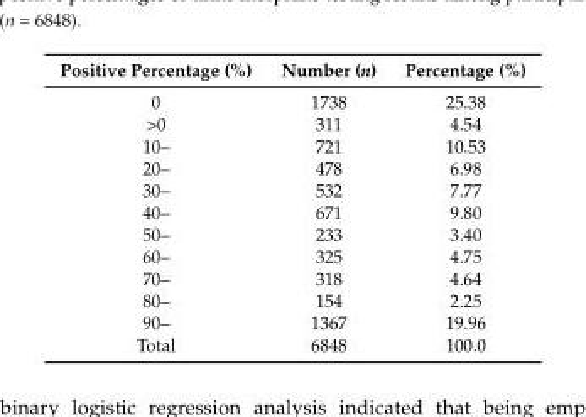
<table><thead><tr><td>Positive Percentage (%)</td><td>Number (n)</td><td>Percentage (%)</td></tr></thead><tbody><tr><td>0</td><td>1738</td><td>25.38</td></tr><tr><td>&gt;0</td><td>311</td><td>4.54</td></tr><tr><td>10–</td><td>721</td><td>10.53</td></tr><tr><td>20–</td><td>478</td><td>6.98</td></tr><tr><td>30–</td><td>532</td><td>7.77</td></tr><tr><td>40–</td><td>671</td><td>9.80</td></tr><tr><td>50–</td><td>233</td><td>3.40</td></tr><tr><td>60–</td><td>325</td><td>4.75</td></tr><tr><td>70–</td><td>318</td><td>4.64</td></tr><tr><td>80–</td><td>154</td><td>2.25</td></tr><tr><td>90–</td><td>1367</td><td>19.96</td></tr><tr><td>Total</td><td>6848</td><td>100.0</td></tr></tbody></table>